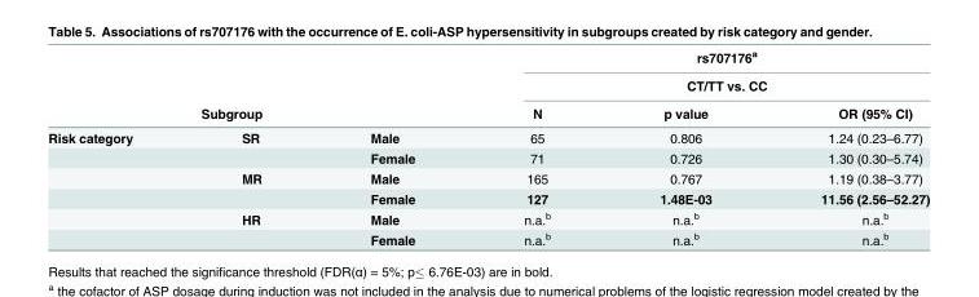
<table><thead><tr><td rowspan="2"></td><td rowspan="2"></td><td rowspan="2"></td><td rowspan="2" colspan="3">rs707176<sup>a</sup> CT/TT vs. CC</td></tr><tr></tr><tr><td colspan="3">Subgroup</td><td>N</td><td>p value</td><td>OR (95% CI)</td></tr></thead><tbody><tr><td rowspan="6">Risk category</td><td>SR</td><td>Male</td><td>65</td><td>0.806</td><td>1.24 (0.23–6.77)</td></tr><tr><td></td><td>Female</td><td>71</td><td>0.726</td><td>1.30 (0.30–5.74)</td></tr><tr><td>MR</td><td>Male</td><td>165</td><td>0.767</td><td>1.19 (0.38–3.77)</td></tr><tr><td></td><td>Female</td><td>127</td><td>1.48E-03</td><td>11.56 (2.56–52.27)</td></tr><tr><td>HR</td><td>Male</td><td>n.a.<sup>b</sup></td><td>n.a.<sup>b</sup></td><td>n.a.<sup>b</sup></td></tr><tr><td></td><td>Female</td><td>n.a.<sup>b</sup></td><td>n.a.<sup>b</sup></td><td>n.a.<sup>b</sup></td></tr></tbody></table>